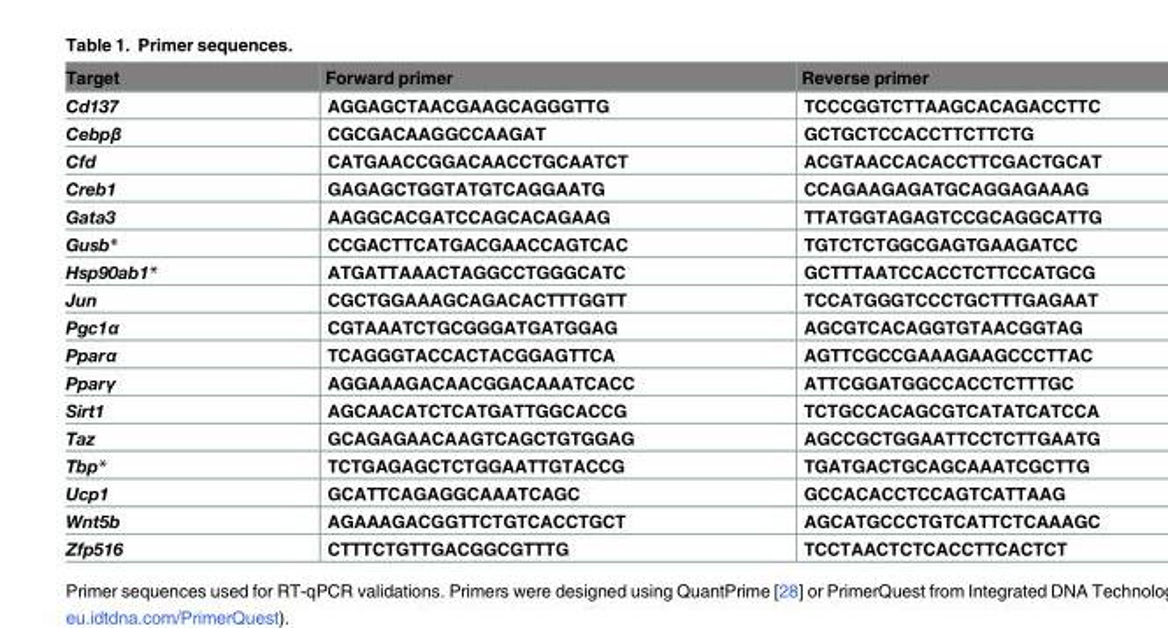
<table><thead><tr><td>Target</td><td>Forward primer</td><td>Reverse primer</td></tr></thead><tbody><tr><td>Cd137</td><td>AGGAGCTAACGAAGCAGGGTTG</td><td>TCCCGGTCTTAAGCACAGACCTTC</td></tr><tr><td>Cebpβ</td><td>CGCGACAAGGCCAAGAT</td><td>GCTGCTCCACCTTCTTCTG</td></tr><tr><td>Cfd</td><td>CATGAACCGGACAACCTGCAATCT</td><td>ACGTAACCACACCTTCGACTGCAT</td></tr><tr><td>Creb1</td><td>GAGAGCTGGTATGTCAGGAATG</td><td>CCAGAAGAGATGCAGGAGAAAG</td></tr><tr><td>Gata3</td><td>AAGGCACGATCCAGCACAGAAG</td><td>TTATGGTAGAGTCCGCAGGCATTG</td></tr><tr><td>Gusb*</td><td>CCGACTTCATGACGAACCAGTCAC</td><td>TGTCTCTGGCGAGTGAAGATCC</td></tr><tr><td>Hsp90ab1*</td><td>ATGATTAAACTAGGCCTGGGCATC</td><td>GCTTTAATCCACCTCTTCCATGCG</td></tr><tr><td>Jun</td><td>CGCTGGAAAGCAGACACTTTGGTT</td><td>TCCATGGGTCCCTGCTTTGAGAAT</td></tr><tr><td>Pgc1α</td><td>CGTAAATCTGCGGGATGATGGAG</td><td>AGCGTCACAGGTGTAACGGTAG</td></tr><tr><td>Pparα</td><td>TCAGGGTACCACTACGGAGTTCA</td><td>AGTTCGCCGAAAGAAGCCCTTAC</td></tr><tr><td>Pparγ</td><td>AGGAAAGACAACGGACAAATCACC</td><td>ATTCGGATGGCCACCTCTTTGC</td></tr><tr><td>Sirt1</td><td>AGCAACATCTCATGATTGGCACCG</td><td>TCTGCCACAGCGTCATATCATCCA</td></tr><tr><td>Taz</td><td>GCAGAGAACAAGTCAGCTGTGGAG</td><td>AGCCGCTGGAATTCCTCTTGAATG</td></tr><tr><td>Tbp*</td><td>TCTGAGAGCTCTGGAATTGTACCG</td><td>TGATGACTGCAGCAAATCGCTTG</td></tr><tr><td>Ucp1</td><td>GCATTCAGAGGCAAATCAGC</td><td>GCCACACCTCCAGTCATTAAG</td></tr><tr><td>Wnt5b</td><td>AGAAAGACGGTTCTGTCACCTGCT</td><td>AGCATGCCCTGTCATTCTCAAAGC</td></tr><tr><td>Zfp516</td><td>CTTTCTGTTGACGGCGTTTG</td><td>TCCTAACTCTCACCTTCACTCT</td></tr></tbody></table>